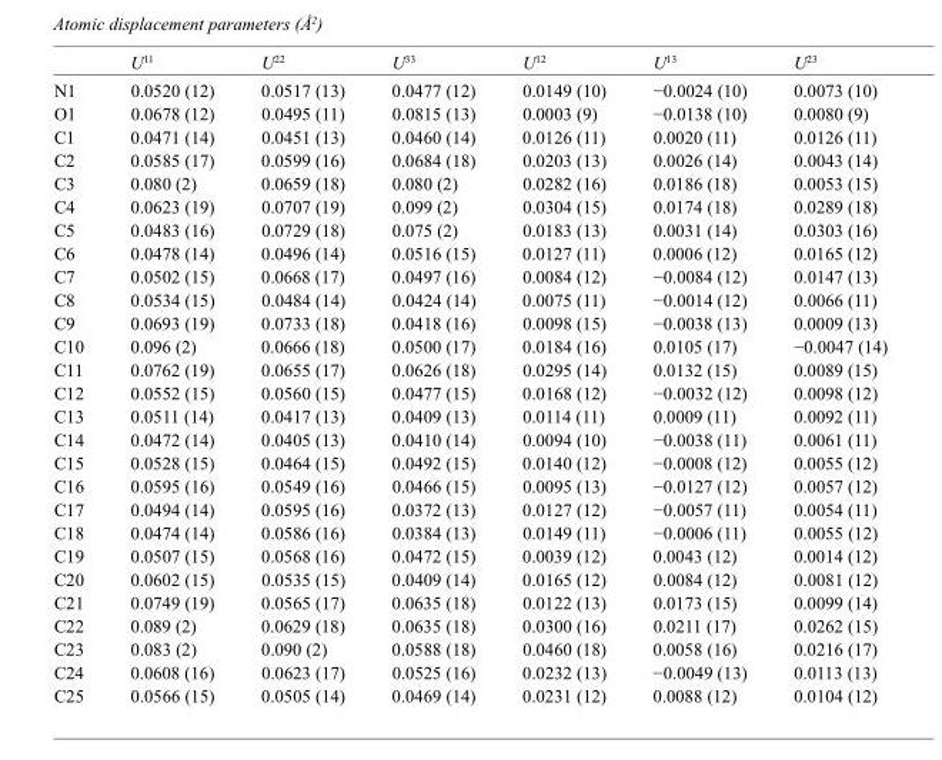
<table><thead><tr><td></td><td>U<sup>11</sup></td><td>U<sup>22</sup></td><td>U<sup>33</sup></td><td>U<sup>12</sup></td><td>U<sup>13</sup></td><td>U<sup>23</sup></td></tr></thead><tbody><tr><td>N1</td><td>0.0520 (12)</td><td>0.0517 (13)</td><td>0.0477 (12)</td><td>0.0149 (10)</td><td>−0.0024 (10)</td><td>0.0073 (10)</td></tr><tr><td>O1</td><td>0.0678 (12)</td><td>0.0495 (11)</td><td>0.0815 (13)</td><td>0.0003 (9)</td><td>−0.0138 (10)</td><td>0.0080 (9)</td></tr><tr><td>C1</td><td>0.0471 (14)</td><td>0.0451 (13)</td><td>0.0460 (14)</td><td>0.0126 (11)</td><td>0.0020 (11)</td><td>0.0126 (11)</td></tr><tr><td>C2</td><td>0.0585 (17)</td><td>0.0599 (16)</td><td>0.0684 (18)</td><td>0.0203 (13)</td><td>0.0026 (14)</td><td>0.0043 (14)</td></tr><tr><td>C3</td><td>0.080 (2)</td><td>0.0659 (18)</td><td>0.080 (2)</td><td>0.0282 (16)</td><td>0.0186 (18)</td><td>0.0053 (15)</td></tr><tr><td>C4</td><td>0.0623 (19)</td><td>0.0707 (19)</td><td>0.099 (2)</td><td>0.0304 (15)</td><td>0.0174 (18)</td><td>0.0289 (18)</td></tr><tr><td>C5</td><td>0.0483 (16)</td><td>0.0729 (18)</td><td>0.075 (2)</td><td>0.0183 (13)</td><td>0.0031 (14)</td><td>0.0303 (16)</td></tr><tr><td>C6</td><td>0.0478 (14)</td><td>0.0496 (14)</td><td>0.0516 (15)</td><td>0.0127 (11)</td><td>0.0006 (12)</td><td>0.0165 (12)</td></tr><tr><td>C7</td><td>0.0502 (15)</td><td>0.0668 (17)</td><td>0.0497 (16)</td><td>0.0084 (12)</td><td>−0.0084 (12)</td><td>0.0147 (13)</td></tr><tr><td>C8</td><td>0.0534 (15)</td><td>0.0484 (14)</td><td>0.0424 (14)</td><td>0.0075 (11)</td><td>−0.0014 (12)</td><td>0.0066 (11)</td></tr><tr><td>C9</td><td>0.0693 (19)</td><td>0.0733 (18)</td><td>0.0418 (16)</td><td>0.0098 (15)</td><td>−0.0038 (13)</td><td>0.0009 (13)</td></tr><tr><td>C10</td><td>0.096 (2)</td><td>0.0666 (18)</td><td>0.0500 (17)</td><td>0.0184 (16)</td><td>0.0105 (17)</td><td>−0.0047 (14)</td></tr><tr><td>C11</td><td>0.0762 (19)</td><td>0.0655 (17)</td><td>0.0626 (18)</td><td>0.0295 (14)</td><td>0.0132 (15)</td><td>0.0089 (15)</td></tr><tr><td>C12</td><td>0.0552 (15)</td><td>0.0560 (15)</td><td>0.0477 (15)</td><td>0.0168 (12)</td><td>−0.0032 (12)</td><td>0.0098 (12)</td></tr><tr><td>C13</td><td>0.0511 (14)</td><td>0.0417 (13)</td><td>0.0409 (13)</td><td>0.0114 (11)</td><td>0.0009 (11)</td><td>0.0092 (11)</td></tr><tr><td>C14</td><td>0.0472 (14)</td><td>0.0405 (13)</td><td>0.0410 (14)</td><td>0.0094 (10)</td><td>−0.0038 (11)</td><td>0.0061 (11)</td></tr><tr><td>C15</td><td>0.0528 (15)</td><td>0.0464 (15)</td><td>0.0492 (15)</td><td>0.0140 (12)</td><td>−0.0008 (12)</td><td>0.0055 (12)</td></tr><tr><td>C16</td><td>0.0595 (16)</td><td>0.0549 (16)</td><td>0.0466 (15)</td><td>0.0095 (13)</td><td>−0.0127 (12)</td><td>0.0057 (12)</td></tr><tr><td>C17</td><td>0.0494 (14)</td><td>0.0595 (16)</td><td>0.0372 (13)</td><td>0.0127 (12)</td><td>−0.0057 (11)</td><td>0.0054 (11)</td></tr><tr><td>C18</td><td>0.0474 (14)</td><td>0.0586 (16)</td><td>0.0384 (13)</td><td>0.0149 (11)</td><td>−0.0006 (11)</td><td>0.0055 (12)</td></tr><tr><td>C19</td><td>0.0507 (15)</td><td>0.0568 (16)</td><td>0.0472 (15)</td><td>0.0039 (12)</td><td>0.0043 (12)</td><td>0.0014 (12)</td></tr><tr><td>C20</td><td>0.0602 (15)</td><td>0.0535 (15)</td><td>0.0409 (14)</td><td>0.0165 (12)</td><td>0.0084 (12)</td><td>0.0081 (12)</td></tr><tr><td>C21</td><td>0.0749 (19)</td><td>0.0565 (17)</td><td>0.0635 (18)</td><td>0.0122 (13)</td><td>0.0173 (15)</td><td>0.0099 (14)</td></tr><tr><td>C22</td><td>0.089 (2)</td><td>0.0629 (18)</td><td>0.0635 (18)</td><td>0.0300 (16)</td><td>0.0211 (17)</td><td>0.0262 (15)</td></tr><tr><td>C23</td><td>0.083 (2)</td><td>0.090 (2)</td><td>0.0588 (18)</td><td>0.0460 (18)</td><td>0.0058 (16)</td><td>0.0216 (17)</td></tr><tr><td>C24</td><td>0.0608 (16)</td><td>0.0623 (17)</td><td>0.0525 (16)</td><td>0.0232 (13)</td><td>−0.0049 (13)</td><td>0.0113 (13)</td></tr><tr><td>C25</td><td>0.0566 (15)</td><td>0.0505 (14)</td><td>0.0469 (14)</td><td>0.0231 (12)</td><td>0.0088 (12)</td><td>0.0104 (12)</td></tr></tbody></table>